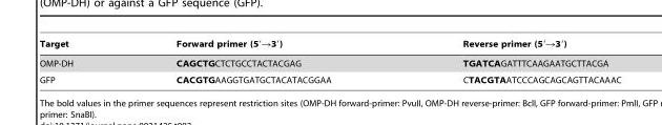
<table><thead><tr><td>Target</td><td>Forward primer (5′→3′)</td><td>Reverse primer (5′→3′)</td></tr></thead><tbody><tr><td>OMP-DH</td><td>CAGCTGCTCTGCCTACTACGAG</td><td>TGATCAGATTTCAAGAATGCTTACGA</td></tr><tr><td>GFP</td><td>CACGTGAAGGTGATGCTACATACGGAA</td><td>CTACGTAATCCCAGCAGCAGTTACAAAC</td></tr></tbody></table>